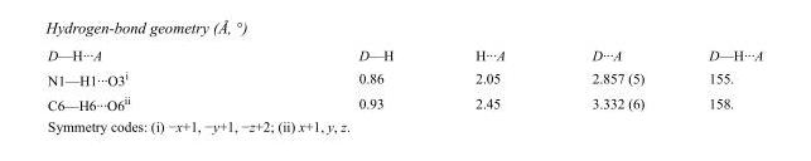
<table><tbody><tr><td>D—H···A</td><td>D—H</td><td>H···A</td><td>D···A</td><td>D—H···A</td></tr><tr><td>N1—H1···O3<sup>i</sup></td><td>0.86</td><td>2.05</td><td>2.857 (5)</td><td>155.</td></tr><tr><td>C6—H6···O6<sup>ii</sup></td><td>0.93</td><td>2.45</td><td>3.332 (6)</td><td>158.</td></tr></tbody></table>